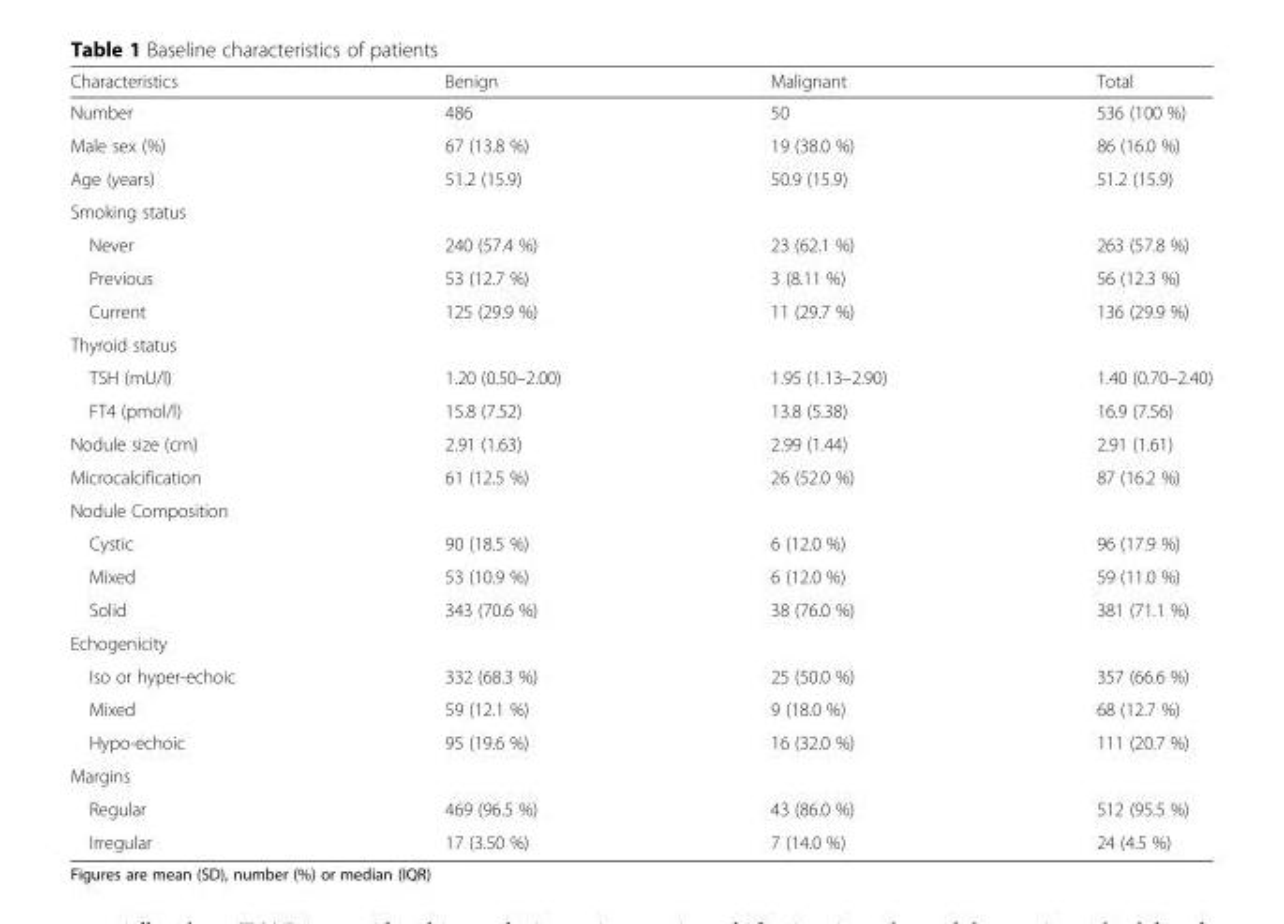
<table><thead><tr><td>Characteristics</td><td>Benign</td><td>Malignant</td><td>Total</td></tr></thead><tbody><tr><td>Number</td><td>486</td><td>50</td><td>536 (100 %)</td></tr><tr><td>Male sex (%)</td><td>67 (13.8 %)</td><td>19 (38.0 %)</td><td>86 (16.0 %)</td></tr><tr><td>Age (years)</td><td>51.2 (15.9)</td><td>50.9 (15.9)</td><td>51.2 (15.9)</td></tr><tr><td colspan="4">Smoking status</td></tr><tr><td>Never</td><td>240 (57.4 %)</td><td>23 (62.1 %)</td><td>263 (57.8 %)</td></tr><tr><td>Previous</td><td>53 (12.7 %)</td><td>3 (8.11 %)</td><td>56 (12.3 %)</td></tr><tr><td>Current</td><td>125 (29.9 %)</td><td>11 (29.7 %)</td><td>136 (29.9 %)</td></tr><tr><td colspan="4">Thyroid status</td></tr><tr><td>TSH (mU/l)</td><td>1.20 (0.50–2.00)</td><td>1.95 (1.13–2.90)</td><td>1.40 (0.70–2.40)</td></tr><tr><td>FT4 (pmol/l)</td><td>15.8 (7.52)</td><td>13.8 (5.38)</td><td>16.9 (7.56)</td></tr><tr><td>Nodule size (cm)</td><td>2.91 (1.63)</td><td>2.99 (1.44)</td><td>2.91 (1.61)</td></tr><tr><td>Microcalcification</td><td>61 (12.5 %)</td><td>26 (52.0 %)</td><td>87 (16.2 %)</td></tr><tr><td colspan="4">Nodule Composition</td></tr><tr><td>Cystic</td><td>90 (18.5 %)</td><td>6 (12.0 %)</td><td>96 (17.9 %)</td></tr><tr><td>Mixed</td><td>53 (10.9 %)</td><td>6 (12.0 %)</td><td>59 (11.0 %)</td></tr><tr><td>Solid</td><td>343 (70.6 %)</td><td>38 (76.0 %)</td><td>381 (71.1 %)</td></tr><tr><td colspan="4">Echogenicity</td></tr><tr><td>Iso or hyper-echoic</td><td>332 (68.3 %)</td><td>25 (50.0 %)</td><td>357 (66.6 %)</td></tr><tr><td>Mixed</td><td>59 (12.1 %)</td><td>9 (18.0 %)</td><td>68 (12.7 %)</td></tr><tr><td>Hypo-echoic</td><td>95 (19.6 %)</td><td>16 (32.0 %)</td><td>111 (20.7 %)</td></tr><tr><td colspan="4">Margins</td></tr><tr><td>Regular</td><td>469 (96.5 %)</td><td>43 (86.0 %)</td><td>512 (95.5 %)</td></tr><tr><td>Irregular</td><td>17 (3.50 %)</td><td>7 (14.0 %)</td><td>24 (4.5 %)</td></tr></tbody></table>